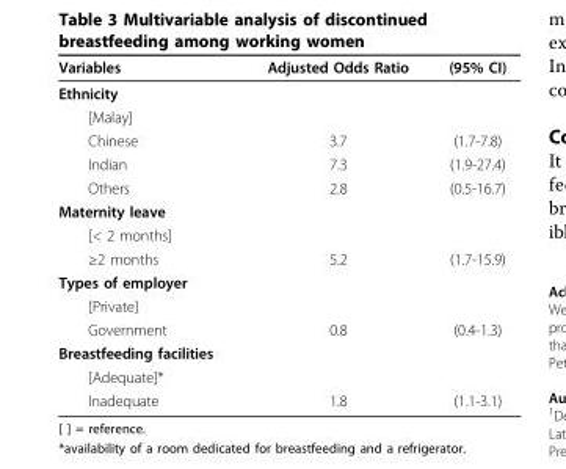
<table><thead><tr><td>Variables</td><td>Adjusted Odds Ratio</td><td>(95% CI)</td></tr></thead><tbody><tr><td colspan="3">Ethnicity</td></tr><tr><td colspan="3">[Malay]</td></tr><tr><td>Chinese</td><td>3.7</td><td>(1.7-7.8)</td></tr><tr><td>Indian</td><td>7.3</td><td>(1.9-27.4)</td></tr><tr><td>Others</td><td>2.8</td><td>(0.5-16.7)</td></tr><tr><td colspan="3">Maternity leave</td></tr><tr><td colspan="3">[&lt; 2 months]</td></tr><tr><td>≥2 months</td><td>5.2</td><td>(1.7-15.9)</td></tr><tr><td colspan="3">Types of employer</td></tr><tr><td colspan="3">[Private]</td></tr><tr><td>Government</td><td>0.8</td><td>(0.4-1.3)</td></tr><tr><td colspan="3">Breastfeeding facilities</td></tr><tr><td colspan="3">[Adequate]*</td></tr><tr><td>Inadequate</td><td>1.8</td><td>(1.1-3.1)</td></tr></tbody></table>